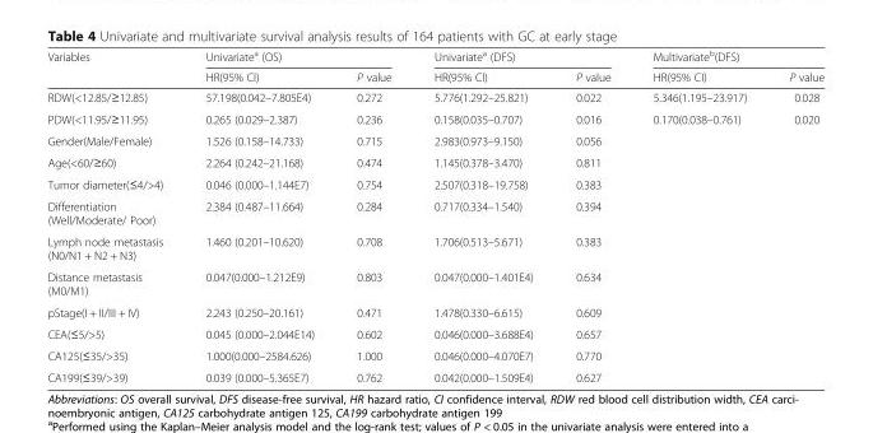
<table><thead><tr><td rowspan="2">Variables</td><td colspan="2">Univariate<sup>a</sup> (OS)</td><td colspan="2">Univariate<sup>a</sup> (DFS)</td><td colspan="2">Multivariate<sup>b</sup>(DFS)</td></tr><tr><td>HR(95% CI)</td><td>P value</td><td>HR(95% CI)</td><td>P value</td><td>HR(95% CI)</td><td>P value</td></tr></thead><tbody><tr><td>RDW(&lt;12.85/≥12.85)</td><td>57.198(0.042–7.805E4)</td><td>0.272</td><td>5.776(1.292–25.821)</td><td>0.022</td><td>5.346(1.195–23.917)</td><td>0.028</td></tr><tr><td>PDW(&lt;11.95/≥11.95)</td><td>0.265 (0.029–2.387)</td><td>0.236</td><td>0.158(0.035–0.707)</td><td>0.016</td><td>0.170(0.038–0.761)</td><td>0.020</td></tr><tr><td>Gender(Male/Female)</td><td>1.526 (0.158–14.733)</td><td>0.715</td><td>2.983(0.973–9.150)</td><td>0.056</td><td></td><td></td></tr><tr><td>Age(&lt;60/≥60)</td><td>2.264 (0.242–21.168)</td><td>0.474</td><td>1.145(0.378–3.470)</td><td>0.811</td><td></td><td></td></tr><tr><td>Tumor diameter(≤4/&gt;4)</td><td>0.046 (0.000–1.144E7)</td><td>0.754</td><td>2.507(0.318–19.758)</td><td>0.383</td><td></td><td></td></tr><tr><td>Differentiation (Well/Moderate/ Poor)</td><td>2.384 (0.487–11.664)</td><td>0.284</td><td>0.717(0.334–1.540)</td><td>0.394</td><td></td><td></td></tr><tr><td>Lymph node metastasis (N0/N1 + N2 + N3)</td><td>1.460 (0.201–10.620)</td><td>0.708</td><td>1.706(0.513–5.671)</td><td>0.383</td><td></td><td></td></tr><tr><td>Distance metastasis (M0/M1)</td><td>0.047(0.000–1.212E9)</td><td>0.803</td><td>0.047(0.000–1.401E4)</td><td>0.634</td><td></td><td></td></tr><tr><td>pStage(I + II/III + IV)</td><td>2.243 (0.250–20.161)</td><td>0.471</td><td>1.478(0.330–6.615)</td><td>0.609</td><td></td><td></td></tr><tr><td>CEA(≤5/&gt;5)</td><td>0.045 (0.000–2.044E14)</td><td>0.602</td><td>0.046(0.000–3.688E4)</td><td>0.657</td><td></td><td></td></tr><tr><td>CA125(≤35/&gt;35)</td><td>1.000(0.000–2584.626)</td><td>1.000</td><td>0.046(0.000–4.070E7)</td><td>0.770</td><td></td><td></td></tr><tr><td>CA199(≤39/&gt;39)</td><td>0.039 (0.000–5.365E7)</td><td>0.762</td><td>0.042(0.000–1.509E4)</td><td>0.627</td><td></td><td></td></tr></tbody></table>